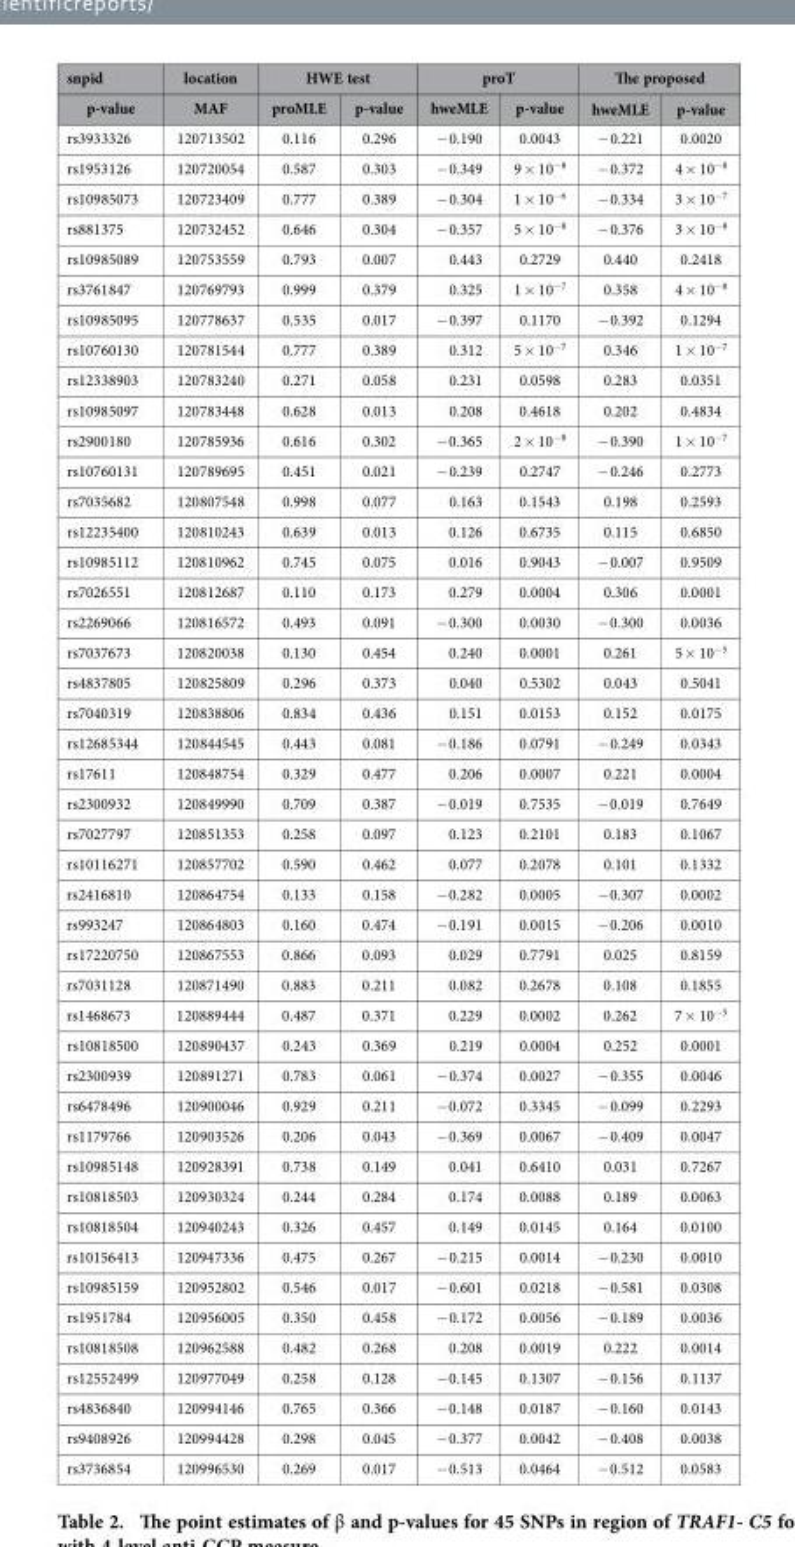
<table><thead><tr><td rowspan="2">snpid p-value</td><td rowspan="2">location MAF</td><td colspan="2">HWE test</td><td colspan="2">proT</td><td colspan="2">The proposed</td></tr><tr><td>proMLE</td><td>p-value</td><td>hweMLE</td><td>p-value</td><td>hweMLE</td><td>p-value</td></tr></thead><tbody><tr><td>rs3933326</td><td>120713502</td><td>0.116</td><td>0.296</td><td>− 0.190</td><td>0.0043</td><td>− 0.221</td><td>0.0020</td></tr><tr><td>rs1953126</td><td>120720054</td><td>0.587</td><td>0.303</td><td>− 0.349</td><td>9 × 10<sup>−8</sup></td><td>− 0.372</td><td>4 × 10<sup>−8</sup></td></tr><tr><td>rs10985073</td><td>120723409</td><td>0.777</td><td>0.389</td><td>− 0.304</td><td>1 × 10<sup>−6</sup></td><td>− 0.334</td><td>3 × 10<sup>−7</sup></td></tr><tr><td>rs881375</td><td>120732452</td><td>0.646</td><td>0.304</td><td>− 0.357</td><td>5 × 10<sup>−8</sup></td><td>− 0.376</td><td>3 × 10<sup>−8</sup></td></tr><tr><td>rs10985089</td><td>120753559</td><td>0.793</td><td>0.007</td><td>0.443</td><td>0.2729</td><td>0.440</td><td>0.2418</td></tr><tr><td>rs3761847</td><td>120769793</td><td>0.999</td><td>0.379</td><td>0.325</td><td>1 × 10<sup>−7</sup></td><td>0.358</td><td>4 × 10<sup>−8</sup></td></tr><tr><td>rs10985095</td><td>120778637</td><td>0.535</td><td>0.017</td><td>− 0.397</td><td>0.1170</td><td>− 0.392</td><td>0.1294</td></tr><tr><td>rs10760130</td><td>120781544</td><td>0.777</td><td>0.389</td><td>0.312</td><td>5 × 10<sup>−7</sup></td><td>0.346</td><td>1 × 10<sup>−7</sup></td></tr><tr><td>rs12338903</td><td>120783240</td><td>0.271</td><td>0.058</td><td>0.231</td><td>0.0598</td><td>0.283</td><td>0.0351</td></tr><tr><td>rs10985097</td><td>120783448</td><td>0.628</td><td>0.013</td><td>0.208</td><td>0.4618</td><td>0.202</td><td>0.4834</td></tr><tr><td>rs2900180</td><td>120785936</td><td>0.616</td><td>0.302</td><td>− 0.365</td><td>2 × 10<sup>−8</sup></td><td>− 0.390</td><td>1 × 10<sup>−7</sup></td></tr><tr><td>rs10760131</td><td>120789695</td><td>0.451</td><td>0.021</td><td>− 0.239</td><td>0.2747</td><td>− 0.246</td><td>0.2773</td></tr><tr><td>rs7035682</td><td>120807548</td><td>0.998</td><td>0.077</td><td>0.163</td><td>0.1543</td><td>0.198</td><td>0.2593</td></tr><tr><td>rs12235400</td><td>120810243</td><td>0.639</td><td>0.013</td><td>0.126</td><td>0.6735</td><td>0.115</td><td>0.6850</td></tr><tr><td>rs10985112</td><td>120810962</td><td>0.745</td><td>0.075</td><td>0.016</td><td>0.9043</td><td>− 0.007</td><td>0.9509</td></tr><tr><td>rs7026551</td><td>120812687</td><td>0.110</td><td>0.173</td><td>0.279</td><td>0.0004</td><td>0.306</td><td>0.0001</td></tr><tr><td>rs2269066</td><td>120816572</td><td>0.493</td><td>0.091</td><td>− 0.300</td><td>0.0030</td><td>− 0.300</td><td>0.0036</td></tr><tr><td>rs7037673</td><td>120820038</td><td>0.130</td><td>0.454</td><td>0.240</td><td>0.0001</td><td>0.261</td><td>5 × 10<sup>−5</sup></td></tr><tr><td>rs4837805</td><td>120825809</td><td>0.296</td><td>0.373</td><td>0.040</td><td>0.5302</td><td>0.043</td><td>0.5041</td></tr><tr><td>rs7040319</td><td>120838806</td><td>0.834</td><td>0.436</td><td>0.151</td><td>0.0153</td><td>0.152</td><td>0.0175</td></tr><tr><td>rs12685344</td><td>120844545</td><td>0.443</td><td>0.081</td><td>− 0.186</td><td>0.0791</td><td>− 0.249</td><td>0.0343</td></tr><tr><td>rs17611</td><td>120848754</td><td>0.329</td><td>0.477</td><td>0.206</td><td>0.0007</td><td>0.221</td><td>0.0004</td></tr><tr><td>rs2300932</td><td>120849990</td><td>0.709</td><td>0.387</td><td>− 0.019</td><td>0.7535</td><td>− 0.019</td><td>0.7649</td></tr><tr><td>rs7027797</td><td>120851353</td><td>0.258</td><td>0.097</td><td>0.123</td><td>0.2101</td><td>0.183</td><td>0.1067</td></tr><tr><td>rs10116271</td><td>120857702</td><td>0.590</td><td>0.462</td><td>0.077</td><td>0.2078</td><td>0.101</td><td>0.1332</td></tr><tr><td>rs2416810</td><td>120864754</td><td>0.133</td><td>0.158</td><td>− 0.282</td><td>0.0005</td><td>− 0.307</td><td>0.0002</td></tr><tr><td>rs993247</td><td>120864803</td><td>0.160</td><td>0.474</td><td>− 0.191</td><td>0.0015</td><td>− 0.206</td><td>0.0010</td></tr><tr><td>rs17220750</td><td>120867553</td><td>0.866</td><td>0.093</td><td>0.029</td><td>0.7791</td><td>0.025</td><td>0.8159</td></tr><tr><td>rs7031128</td><td>120871490</td><td>0.883</td><td>0.211</td><td>0.082</td><td>0.2678</td><td>0.108</td><td>0.1855</td></tr><tr><td>rs1468673</td><td>120889444</td><td>0.487</td><td>0.371</td><td>0.229</td><td>0.0002</td><td>0.262</td><td>7 × 10<sup>−5</sup></td></tr><tr><td>rs10818500</td><td>120890437</td><td>0.243</td><td>0.369</td><td>0.219</td><td>0.0004</td><td>0.252</td><td>0.0001</td></tr><tr><td>rs2300939</td><td>120891271</td><td>0.783</td><td>0.061</td><td>− 0.374</td><td>0.0027</td><td>− 0.355</td><td>0.0046</td></tr><tr><td>rs6478496</td><td>120900046</td><td>0.929</td><td>0.211</td><td>− 0.072</td><td>0.3345</td><td>− 0.099</td><td>0.2293</td></tr><tr><td>rs1179766</td><td>120903526</td><td>0.206</td><td>0.043</td><td>− 0.369</td><td>0.0067</td><td>− 0.409</td><td>0.0047</td></tr><tr><td>rs10985148</td><td>120928391</td><td>0.738</td><td>0.149</td><td>0.041</td><td>0.6410</td><td>0.031</td><td>0.7267</td></tr><tr><td>rs10818503</td><td>120930324</td><td>0.244</td><td>0.284</td><td>0.174</td><td>0.0088</td><td>0.189</td><td>0.0063</td></tr><tr><td>rs10818504</td><td>120940243</td><td>0.326</td><td>0.457</td><td>0.149</td><td>0.0145</td><td>0.164</td><td>0.0100</td></tr><tr><td>rs10156413</td><td>120947336</td><td>0.475</td><td>0.267</td><td>− 0.215</td><td>0.0014</td><td>− 0.230</td><td>0.0010</td></tr><tr><td>rs10985159</td><td>120952802</td><td>0.546</td><td>0.017</td><td>− 0.601</td><td>0.0218</td><td>− 0.581</td><td>0.0308</td></tr><tr><td>rs1951784</td><td>120956005</td><td>0.350</td><td>0.458</td><td>− 0.172</td><td>0.0056</td><td>− 0.189</td><td>0.0036</td></tr><tr><td>rs10818508</td><td>120962588</td><td>0.482</td><td>0.268</td><td>0.208</td><td>0.0019</td><td>0.222</td><td>0.0014</td></tr><tr><td>rs12552499</td><td>120977049</td><td>0.258</td><td>0.128</td><td>− 0.145</td><td>0.1307</td><td>− 0.156</td><td>0.1137</td></tr><tr><td>rs4836840</td><td>120994146</td><td>0.765</td><td>0.366</td><td>− 0.148</td><td>0.0187</td><td>− 0.160</td><td>0.0143</td></tr><tr><td>rs9408926</td><td>120994428</td><td>0.298</td><td>0.045</td><td>− 0.377</td><td>0.0042</td><td>− 0.408</td><td>0.0038</td></tr><tr><td>rs3736854</td><td>120996530</td><td>0.269</td><td>0.017</td><td>− 0.513</td><td>0.0464</td><td>− 0.512</td><td>0.0583</td></tr></tbody></table>